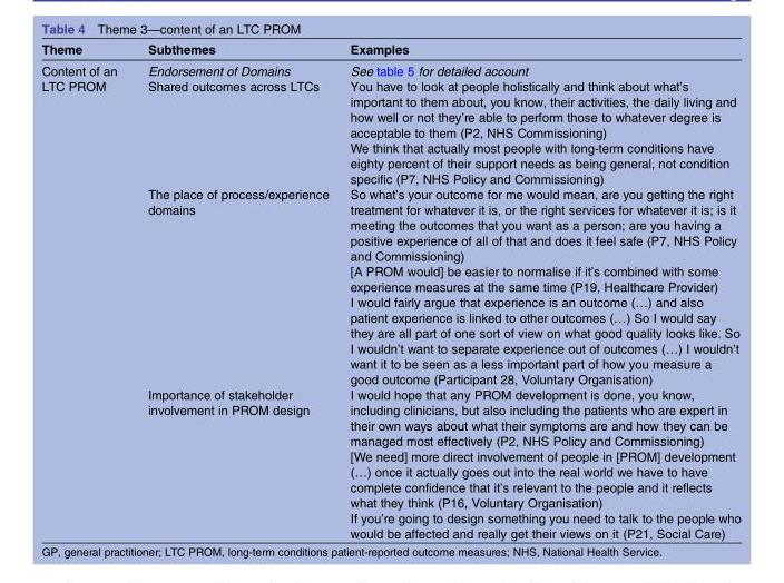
<table><thead><tr><td>Theme</td><td>Subthemes</td><td>Examples</td></tr></thead><tbody><tr><td rowspan="9">Content of an LTC PROM</td><td>Endorsement of Domains</td><td>See table 5 for detailed account</td></tr><tr><td rowspan="2">Shared outcomes across LTCs</td><td>You have to look at people holistically and think about what’s important to them about, you know, their activities, the daily living and how well or not they’re able to perform those to whatever degree is acceptable to them (P2, NHS Commissioning)</td></tr><tr><td>We think that actually most people with long-term conditions have eighty percent of their support needs as being general, not condition specific (P7, NHS Policy and Commissioning)</td></tr><tr><td rowspan="3">The place of process/experience domains</td><td>So what’s your outcome for me would mean, are you getting the right treatment for whatever it is, or the right services for whatever it is; is it meeting the outcomes that you want as a person; are you having a positive experience of all of that and does it feel safe (P7, NHS Policy and Commissioning)</td></tr><tr><td>[A PROM would] be easier to normalise if it’s combined with some experience measures at the same time (P19, Healthcare Provider)</td></tr><tr><td>I would fairly argue that experience is an outcome (…) and also patient experience is linked to other outcomes (…) So I would say they are all part of one sort of view on what good quality looks like. So I wouldn’t want to separate experience out of outcomes (…) I wouldn’t want it to be seen as a less important part of how you measure a good outcome (Participant 28, Voluntary Organisation)</td></tr><tr><td rowspan="3">Importance of stakeholder involvement in PROM design</td><td>I would hope that any PROM development is done, you know, including clinicians, but also including the patients who are expert in their own ways about what their symptoms are and how they can be managed most effectively (P2, NHS Policy and Commissioning)</td></tr><tr><td>[We need] more direct involvement of people in [PROM] development (…) once it actually goes out into the real world we have to have complete confidence that it’s relevant to the people and it reflects what they think (P16, Voluntary Organisation)</td></tr><tr><td>If you’re going to design something you need to talk to the people who would be affected and really get their views on it (P21, Social Care)</td></tr></tbody></table>